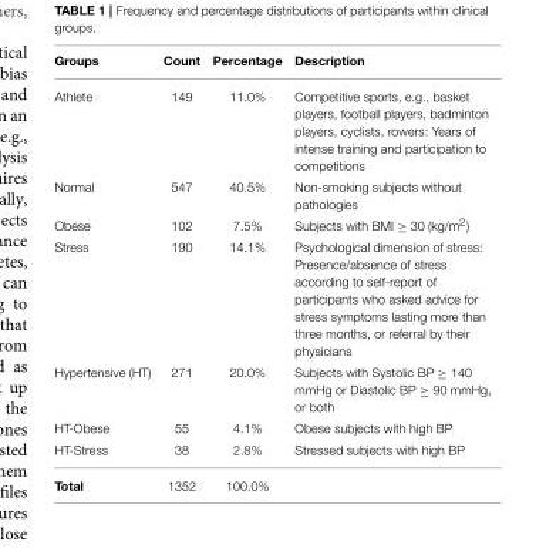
<table><thead><tr><td>Groups</td><td>Count</td><td>Percentage</td><td>Description</td></tr></thead><tbody><tr><td>Athlete</td><td>149</td><td>11.0%</td><td>Competitive sports, e.g., basket players, football players, badminton players, cyclists, rowers: Years of intense training and participation to competitions</td></tr><tr><td>Normal</td><td>547</td><td>40.5%</td><td>Non-smoking subjects without pathologies</td></tr><tr><td>Obese</td><td>102</td><td>7.5%</td><td>Subjects with BMI ≥ 30 (kg/m<sup>2</sup>)</td></tr><tr><td>Stress</td><td>190</td><td>14.1%</td><td>Psychological dimension of stress: Presence/absence of stress according to self-report of participants who asked advice for stress symptoms lasting more than three months, or referral by their physicians</td></tr><tr><td>Hypertensive (HT)</td><td>271</td><td>20.0%</td><td>Subjects with Systolic BP ≥ 140 mmHg or Diastolic BP ≥ 90 mmHg, or both</td></tr><tr><td>HT-Obese</td><td>55</td><td>4.1%</td><td>Obese subjects with high BP</td></tr><tr><td>HT-Stress</td><td>38</td><td>2.8%</td><td>Stressed subjects with high BP</td></tr><tr><td>Total</td><td>1352</td><td>100.0%</td><td></td></tr></tbody></table>